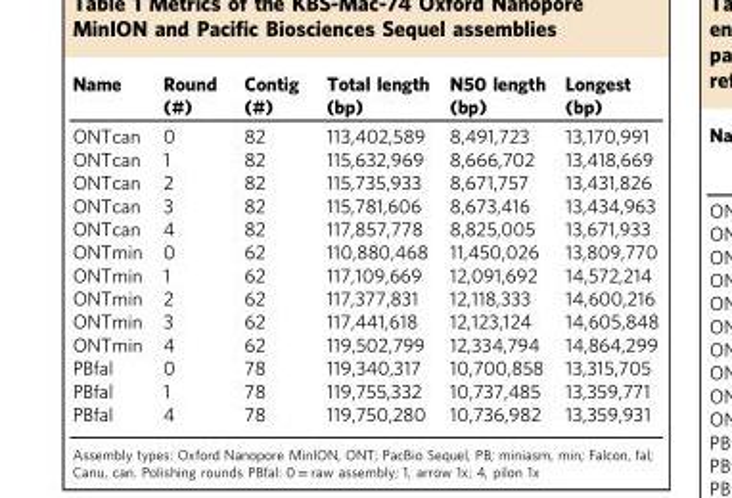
<table><thead><tr><td>Name</td><td>Round (#)</td><td>Contig (#)</td><td>Total length (bp)</td><td>N50 length (bp)</td><td>Longest (bp)</td></tr></thead><tbody><tr><td>ONTcan</td><td>0</td><td>82</td><td>113,402,589</td><td>8,491,723</td><td>13,170,991</td></tr><tr><td>ONTcan</td><td>1</td><td>82</td><td>115,632,969</td><td>8,666,702</td><td>13,418,669</td></tr><tr><td>ONTcan</td><td>2</td><td>82</td><td>115,735,933</td><td>8,671,757</td><td>13,431,826</td></tr><tr><td>ONTcan</td><td>3</td><td>82</td><td>115,781,606</td><td>8,673,416</td><td>13,434,963</td></tr><tr><td>ONTcan</td><td>4</td><td>82</td><td>117,857,778</td><td>8,825,005</td><td>13,671,933</td></tr><tr><td>ONTmin</td><td>0</td><td>62</td><td>110,880,468</td><td>11,450,026</td><td>13,809,770</td></tr><tr><td>ONTmin</td><td>1</td><td>62</td><td>117,109,669</td><td>12,091,692</td><td>14,572,214</td></tr><tr><td>ONTmin</td><td>2</td><td>62</td><td>117,377,831</td><td>12,118,333</td><td>14,600,216</td></tr><tr><td>ONTmin</td><td>3</td><td>62</td><td>117,441,618</td><td>12,123,124</td><td>14,605,848</td></tr><tr><td>ONTmin</td><td>4</td><td>62</td><td>119,502,799</td><td>12,334,794</td><td>14,864,299</td></tr><tr><td>PBfal</td><td>0</td><td>78</td><td>119,340,317</td><td>10,700,858</td><td>13,315,705</td></tr><tr><td>PBfal</td><td>1</td><td>78</td><td>119,755,332</td><td>10,737,485</td><td>13,359,771</td></tr><tr><td>PBfal</td><td>4</td><td>78</td><td>119,750,280</td><td>10,736,982</td><td>13,359,931</td></tr></tbody></table>